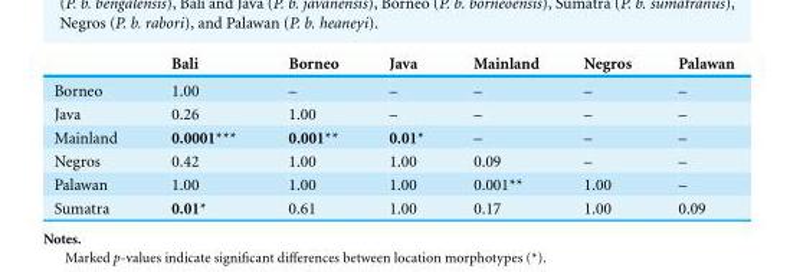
<table><thead><tr><td></td><td>Bali</td><td>Borneo</td><td>Java</td><td>Mainland</td><td>Negros</td><td>Palawan</td></tr></thead><tbody><tr><td>Borneo</td><td>1.00</td><td>–</td><td>–</td><td>–</td><td>–</td><td>–</td></tr><tr><td>Java</td><td>0.26</td><td>1.00</td><td>–</td><td>–</td><td>–</td><td>–</td></tr><tr><td>Mainland</td><td>0.0001***</td><td>0.001**</td><td>0.01*</td><td>–</td><td>–</td><td>–</td></tr><tr><td>Negros</td><td>0.42</td><td>1.00</td><td>1.00</td><td>0.09</td><td>–</td><td>–</td></tr><tr><td>Palawan</td><td>1.00</td><td>1.00</td><td>1.00</td><td>0.001**</td><td>1.00</td><td>–</td></tr><tr><td>Sumatra</td><td>0.01*</td><td>0.61</td><td>1.00</td><td>0.17</td><td>1.00</td><td>0.09</td></tr></tbody></table>